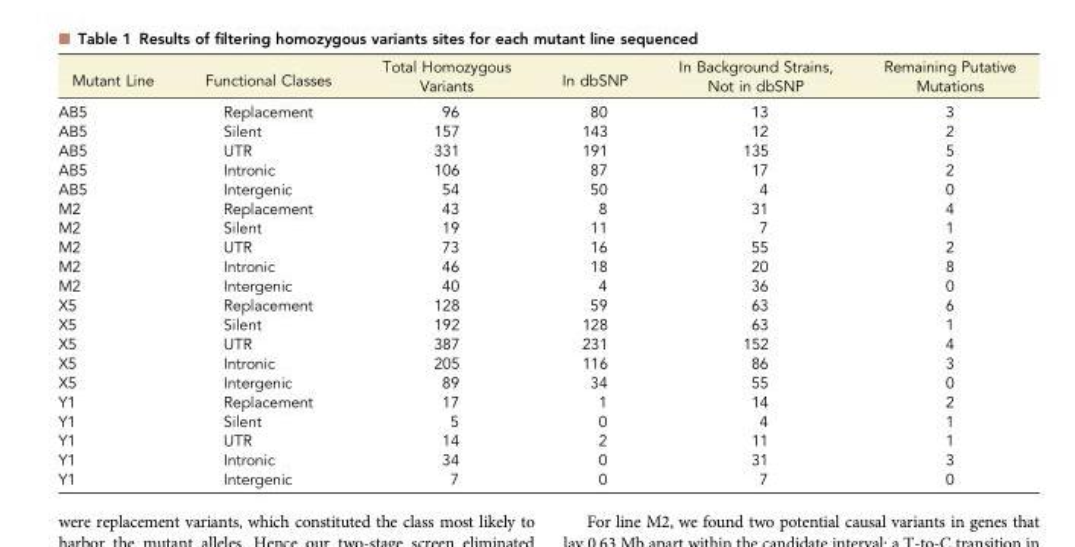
<table><thead><tr><td>Mutant Line</td><td>Functional Classes</td><td>Total Homozygous Variants</td><td>In dbSNP</td><td>In Background Strains, Not in dbSNP</td><td>Remaining Putative Mutations</td></tr></thead><tbody><tr><td>AB5</td><td>Replacement</td><td>96</td><td>80</td><td>13</td><td>3</td></tr><tr><td>AB5</td><td>Silent</td><td>157</td><td>143</td><td>12</td><td>2</td></tr><tr><td>AB5</td><td>UTR</td><td>331</td><td>191</td><td>135</td><td>5</td></tr><tr><td>AB5</td><td>Intronic</td><td>106</td><td>87</td><td>17</td><td>2</td></tr><tr><td>AB5</td><td>Intergenic</td><td>54</td><td>50</td><td>4</td><td>0</td></tr><tr><td>M2</td><td>Replacement</td><td>43</td><td>8</td><td>31</td><td>4</td></tr><tr><td>M2</td><td>Silent</td><td>19</td><td>11</td><td>7</td><td>1</td></tr><tr><td>M2</td><td>UTR</td><td>73</td><td>16</td><td>55</td><td>2</td></tr><tr><td>M2</td><td>Intronic</td><td>46</td><td>18</td><td>20</td><td>8</td></tr><tr><td>M2</td><td>Intergenic</td><td>40</td><td>4</td><td>36</td><td>0</td></tr><tr><td>X5</td><td>Replacement</td><td>128</td><td>59</td><td>63</td><td>6</td></tr><tr><td>X5</td><td>Silent</td><td>192</td><td>128</td><td>63</td><td>1</td></tr><tr><td>X5</td><td>UTR</td><td>387</td><td>231</td><td>152</td><td>4</td></tr><tr><td>X5</td><td>Intronic</td><td>205</td><td>116</td><td>86</td><td>3</td></tr><tr><td>X5</td><td>Intergenic</td><td>89</td><td>34</td><td>55</td><td>0</td></tr><tr><td>Y1</td><td>Replacement</td><td>17</td><td>1</td><td>14</td><td>2</td></tr><tr><td>Y1</td><td>Silent</td><td>5</td><td>0</td><td>4</td><td>1</td></tr><tr><td>Y1</td><td>UTR</td><td>14</td><td>2</td><td>11</td><td>1</td></tr><tr><td>Y1</td><td>Intronic</td><td>34</td><td>0</td><td>31</td><td>3</td></tr><tr><td>Y1</td><td>Intergenic</td><td>7</td><td>0</td><td>7</td><td>0</td></tr></tbody></table>